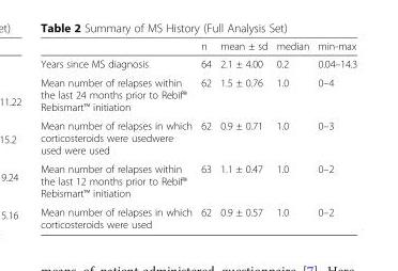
<table><thead><tr><td></td><td>n</td><td>mean ± sd</td><td>median</td><td>min-max</td></tr></thead><tbody><tr><td>Years since MS diagnosis</td><td>64</td><td>2.1 ± 4.00</td><td>0.2</td><td>0.04–14.3</td></tr><tr><td>Mean number of relapses within the last 24 months prior to Rebif® Rebismart™ initiation</td><td>62</td><td>1.5 ± 0.76</td><td>1.0</td><td>0–4</td></tr><tr><td>Mean number of relapses in which corticosteroids were usedwere used were used</td><td>62</td><td>0.9 ± 0.71</td><td>1.0</td><td>0–3</td></tr><tr><td>Mean number of relapses within the last 12 months prior to Rebif® Rebismart™ initiation</td><td>63</td><td>1.1 ± 0.47</td><td>1.0</td><td>0–2</td></tr><tr><td>Mean number of relapses in which corticosteroids were used</td><td>62</td><td>0.9 ± 0.57</td><td>1.0</td><td>0–2</td></tr></tbody></table>